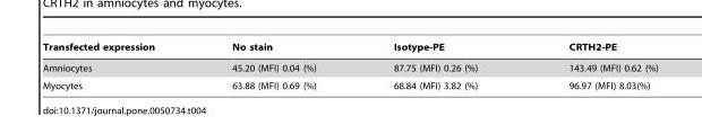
<table><thead><tr><td>Transfected expression</td><td>No stain</td><td>Isotype-PE</td><td>CRTH2-PE</td></tr></thead><tbody><tr><td>Amniocytes</td><td>45.20 (MFI) 0.04 (%)</td><td>87.75 (MFI) 0.26 (%)</td><td>143.49 (MFI) 0.62 (%)</td></tr><tr><td>Myocytes</td><td>63.88 (MFI) 0.69 (%)</td><td>68.84 (MFI) 3.82 (%)</td><td>96.97 (MFI) 8.03(%)</td></tr></tbody></table>